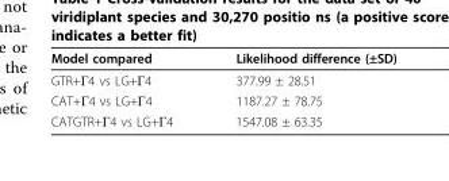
<table><thead><tr><td>Model compared</td><td>Likelihood difference (±SD)</td></tr></thead><tbody><tr><td>GTR+Γ4 vs LG+Γ4</td><td>377.99 ± 28.51</td></tr><tr><td>CAT+Γ4 vs LG+Γ4</td><td>1187.27 ± 78.75</td></tr><tr><td>CATGTR+Γ4 vs LG+Γ4</td><td>1547.08 ± 63.35</td></tr></tbody></table>